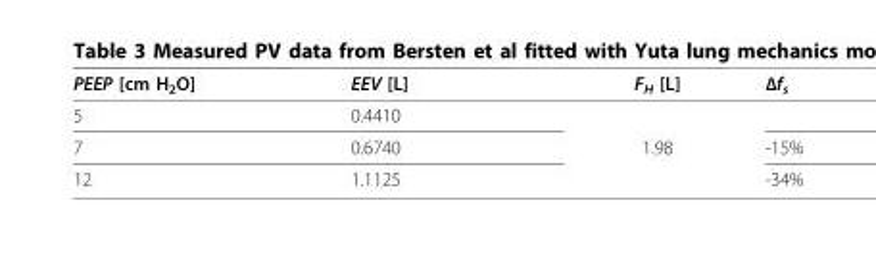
<table><thead><tr><td>PEEP [cm H<sub>2</sub>O]</td><td>EEV [L]</td><td>F<sub>H</sub> [L]</td><td>Δf<sub>s</sub></td></tr></thead><tbody><tr><td>5</td><td>0.4410</td><td></td><td></td></tr><tr><td>7</td><td>0.6740</td><td>1.98</td><td>-15%</td></tr><tr><td>12</td><td>1.1125</td><td></td><td>-34%</td></tr></tbody></table>